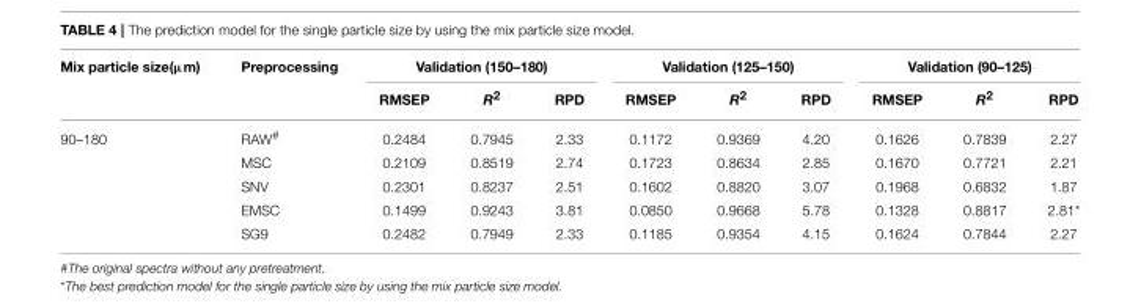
<table><thead><tr><td rowspan="2">Mix particle size(µm)</td><td rowspan="2">Preprocessing</td><td colspan="3">Validation (150–180)</td><td colspan="3">Validation (125–150)</td><td colspan="3">Validation (90–125)</td></tr><tr><td>RMSEP</td><td>R<sup>2</sup></td><td>RPD</td><td>RMSEP</td><td>R<sup>2</sup></td><td>RPD</td><td>RMSEP</td><td>R<sup>2</sup></td><td>RPD</td></tr></thead><tbody><tr><td rowspan="5">90–180</td><td>RAW<sup>#</sup></td><td>0.2484</td><td>0.7945</td><td>2.33</td><td>0.1172</td><td>0.9369</td><td>4.20</td><td>0.1626</td><td>0.7839</td><td>2.27</td></tr><tr><td>MSC</td><td>0.2109</td><td>0.8519</td><td>2.74</td><td>0.1723</td><td>0.8634</td><td>2.85</td><td>0.1670</td><td>0.7721</td><td>2.21</td></tr><tr><td>SNV</td><td>0.2301</td><td>0.8237</td><td>2.51</td><td>0.1602</td><td>0.8820</td><td>3.07</td><td>0.1968</td><td>0.6832</td><td>1.87</td></tr><tr><td>EMSC</td><td>0.1499</td><td>0.9243</td><td>3.81</td><td>0.0850</td><td>0.9668</td><td>5.78</td><td>0.1328</td><td>0.8817</td><td>2.81*</td></tr><tr><td>SG9</td><td>0.2482</td><td>0.7949</td><td>2.33</td><td>0.1185</td><td>0.9354</td><td>4.15</td><td>0.1624</td><td>0.7844</td><td>2.27</td></tr></tbody></table>